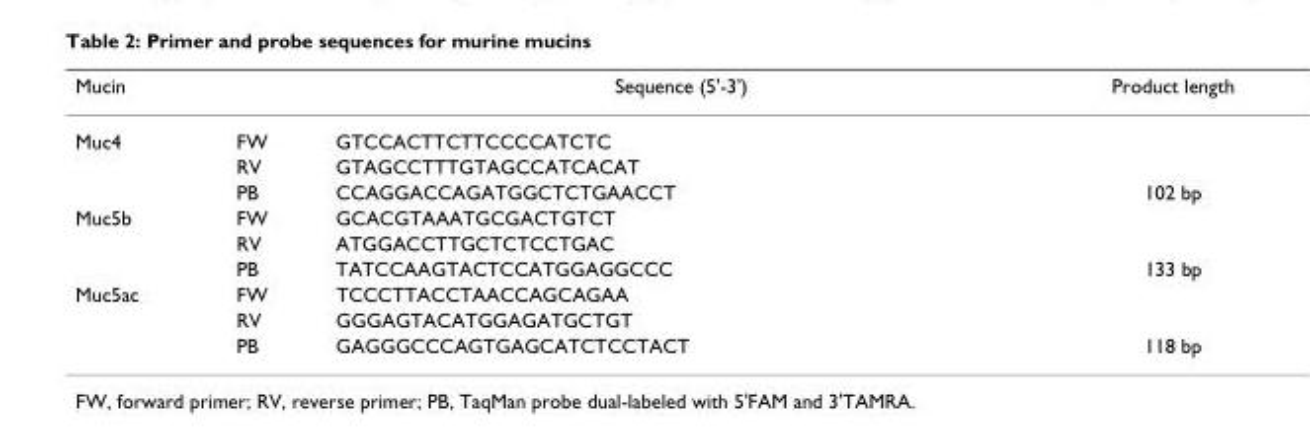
<table><thead><tr><td>Mucin</td><td></td><td>Sequence (5&#x27;-3&#x27;)</td><td>Product length</td></tr></thead><tbody><tr><td rowspan="3">Muc4</td><td>FW</td><td>GTCCACTTCTTCCCCATCTC</td><td></td></tr><tr><td>RV</td><td>GTAGCCTTTGTAGCCATCACAT</td><td></td></tr><tr><td>PB</td><td>CCAGGACCAGATGGCTCTGAACCT</td><td>102 bp</td></tr><tr><td rowspan="3">Muc5b</td><td>FW</td><td>GCACGTAAATGCGACTGTCT</td><td></td></tr><tr><td>RV</td><td>ATGGACCTTGCTCTCCTGAC</td><td></td></tr><tr><td>PB</td><td>TATCCAAGTACTCCATGGAGGCCC</td><td>133 bp</td></tr><tr><td rowspan="3">Muc5ac</td><td>FW</td><td>TCCCTTACCTAACCAGCAGAA</td><td></td></tr><tr><td>RV</td><td>GGGAGTACATGGAGATGCTGT</td><td></td></tr><tr><td>PB</td><td>GAGGGCCCAGTGAGCATCTCCTACT</td><td>118 bp</td></tr></tbody></table>